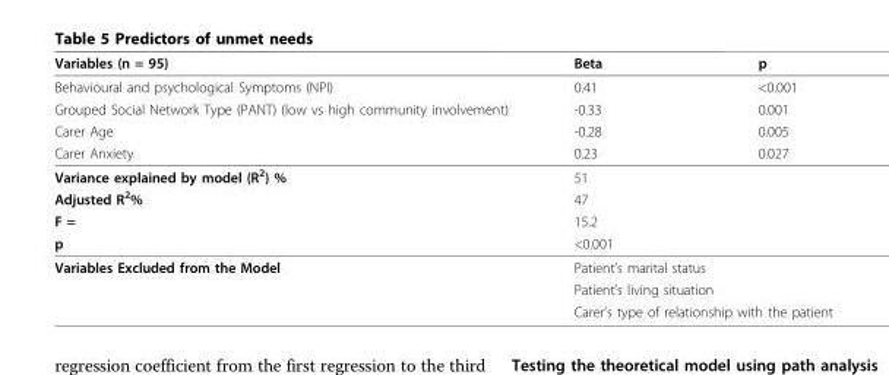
<table><thead><tr><td>Variables (n = 95)</td><td>Beta</td><td>p</td></tr></thead><tbody><tr><td>Behavioural and psychological Symptoms (NPI)</td><td>0.41</td><td>&lt;0.001</td></tr><tr><td>Grouped Social Network Type (PANT) (low vs high community involvement)</td><td>-0.33</td><td>0.001</td></tr><tr><td>Carer Age</td><td>-0.28</td><td>0.005</td></tr><tr><td>Carer Anxiety</td><td>0.23</td><td>0.027</td></tr><tr><td>Variance explained by model (R<sup>2</sup>) %</td><td colspan="2">51</td></tr><tr><td>Adjusted R<sup>2</sup>%</td><td colspan="2">47</td></tr><tr><td>F =</td><td colspan="2">15.2</td></tr><tr><td>p</td><td colspan="2">&lt;0.001</td></tr><tr><td rowspan="3">Variables Excluded from the Model</td><td colspan="2">Patient’s marital status</td></tr><tr><td colspan="2">Patient’s living situation</td></tr><tr><td colspan="2">Carer’s type of relationship with the patient</td></tr></tbody></table>